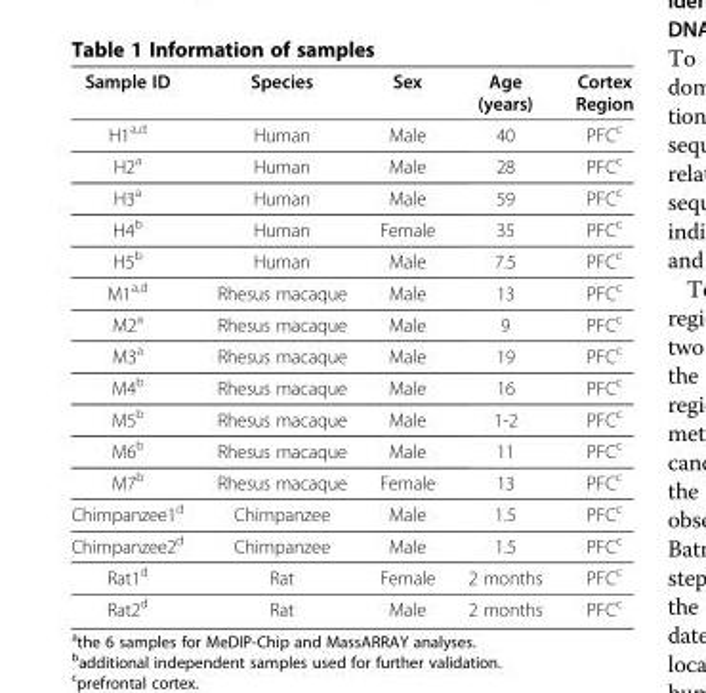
<table><thead><tr><td>Sample ID</td><td>Species</td><td>Sex</td><td>Age (years)</td><td>Cortex Region</td></tr></thead><tbody><tr><td>H1<sup>a,d</sup></td><td>Human</td><td>Male</td><td>40</td><td>PFC<sup>c</sup></td></tr><tr><td>H2<sup>a</sup></td><td>Human</td><td>Male</td><td>28</td><td>PFC<sup>c</sup></td></tr><tr><td>H3<sup>a</sup></td><td>Human</td><td>Male</td><td>59</td><td>PFC<sup>c</sup></td></tr><tr><td>H4<sup>b</sup></td><td>Human</td><td>Female</td><td>35</td><td>PFC<sup>c</sup></td></tr><tr><td>H5<sup>b</sup></td><td>Human</td><td>Male</td><td>7.5</td><td>PFC<sup>c</sup></td></tr><tr><td>M1<sup>a,d</sup></td><td>Rhesus macaque</td><td>Male</td><td>13</td><td>PFC<sup>c</sup></td></tr><tr><td>M2<sup>a</sup></td><td>Rhesus macaque</td><td>Male</td><td>9</td><td>PFC<sup>c</sup></td></tr><tr><td>M3<sup>a</sup></td><td>Rhesus macaque</td><td>Male</td><td>19</td><td>PFC<sup>c</sup></td></tr><tr><td>M4<sup>b</sup></td><td>Rhesus macaque</td><td>Male</td><td>16</td><td>PFC<sup>c</sup></td></tr><tr><td>M5<sup>b</sup></td><td>Rhesus macaque</td><td>Male</td><td>1-2</td><td>PFC<sup>c</sup></td></tr><tr><td>M6<sup>b</sup></td><td>Rhesus macaque</td><td>Male</td><td>11</td><td>PFC<sup>c</sup></td></tr><tr><td>M7<sup>b</sup></td><td>Rhesus macaque</td><td>Female</td><td>13</td><td>PFC<sup>c</sup></td></tr><tr><td>Chimpanzee1<sup>d</sup></td><td>Chimpanzee</td><td>Male</td><td>1.5</td><td>PFC<sup>c</sup></td></tr><tr><td>Chimpanzee2<sup>d</sup></td><td>Chimpanzee</td><td>Male</td><td>1.5</td><td>PFC<sup>c</sup></td></tr><tr><td>Rat1<sup>d</sup></td><td>Rat</td><td>Female</td><td>2 months</td><td>PFC<sup>c</sup></td></tr><tr><td>Rat2<sup>d</sup></td><td>Rat</td><td>Male</td><td>2 months</td><td>PFC<sup>c</sup></td></tr></tbody></table>